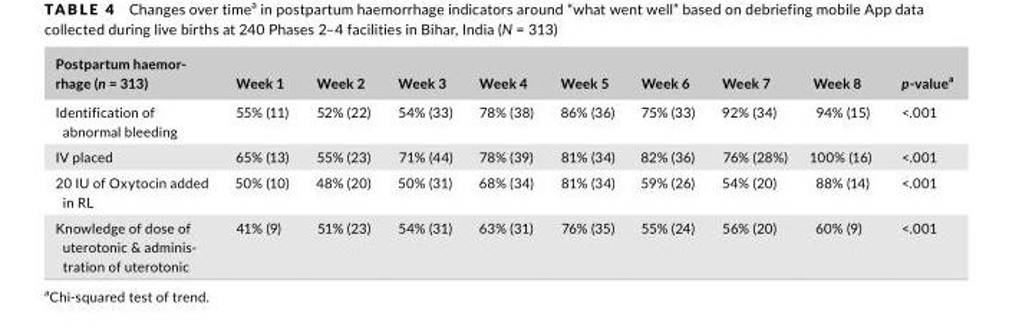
<table><thead><tr><td>Postpartum haemor- rhage (n = 313)</td><td>Week 1</td><td>Week 2</td><td>Week 3</td><td>Week 4</td><td>Week 5</td><td>Week 6</td><td>Week 7</td><td>Week 8</td><td>p- value<sup>a</sup></td></tr></thead><tbody><tr><td>Identification of abnormal bleeding</td><td>55% (11)</td><td>52% (22)</td><td>54% (33)</td><td>78% (38)</td><td>86% (36)</td><td>75% (33)</td><td>92% (34)</td><td>94% (15)</td><td>&lt;.001</td></tr><tr><td>IV placed</td><td>65% (13)</td><td>55% (23)</td><td>71% (44)</td><td>78% (39)</td><td>81% (34)</td><td>82% (36)</td><td>76% (28%)</td><td>100% (16)</td><td>&lt;.001</td></tr><tr><td>20 IU of Oxytocin added in RL</td><td>50% (10)</td><td>48% (20)</td><td>50% (31)</td><td>68% (34)</td><td>81% (34)</td><td>59% (26)</td><td>54% (20)</td><td>88% (14)</td><td>&lt;.001</td></tr><tr><td>Knowledge of dose of uterotonic &amp; adminis- tration of uterotonic</td><td>41% (9)</td><td>51% (23)</td><td>54% (31)</td><td>63% (31)</td><td>76% (35)</td><td>55% (24)</td><td>56% (20)</td><td>60% (9)</td><td>&lt;.001</td></tr></tbody></table>